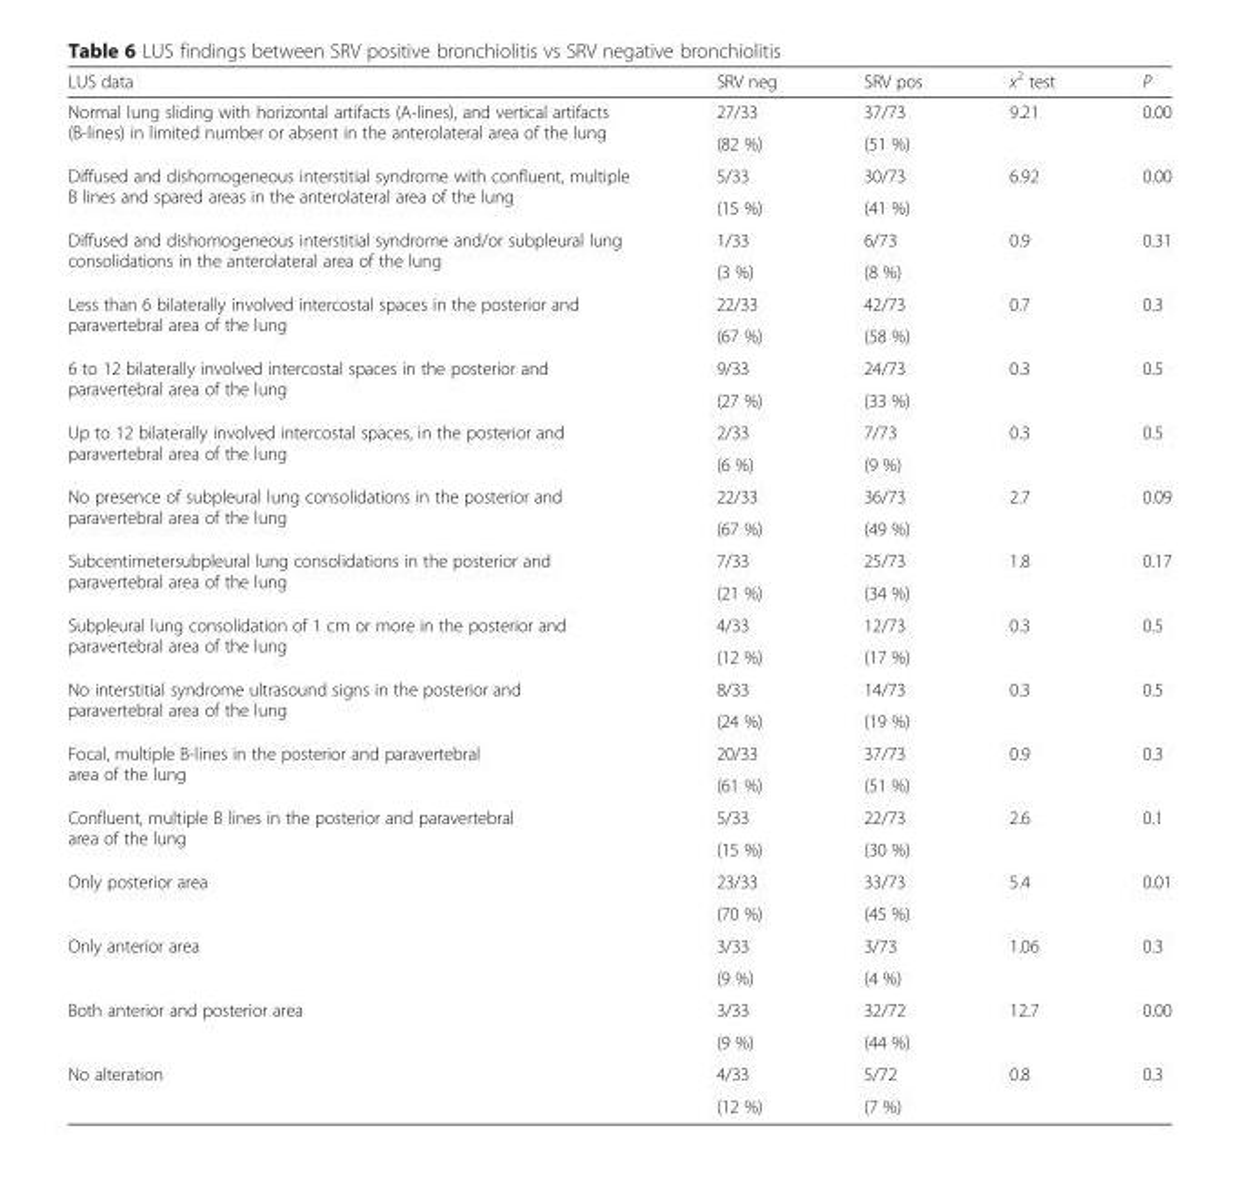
<table><thead><tr><td>LUS data</td><td>SRV neg</td><td>SRV pos</td><td>x<sup>2</sup> test</td><td>P</td></tr></thead><tbody><tr><td rowspan="2">Normal lung sliding with horizontal artifacts (A-lines), and vertical artifacts (B-lines) in limited number or absent in the anterolateral area of the lung</td><td>27/33</td><td>37/73</td><td rowspan="2">9.21</td><td rowspan="2">0.00</td></tr><tr><td>(82 %)</td><td>(51 %)</td></tr><tr><td rowspan="2">Diffused and dishomogeneous interstitial syndrome with confluent, multiple B lines and spared areas in the anterolateral area of the lung</td><td>5/33</td><td>30/73</td><td rowspan="2">6.92</td><td rowspan="2">0.00</td></tr><tr><td>(15 %)</td><td>(41 %)</td></tr><tr><td rowspan="2">Diffused and dishomogeneous interstitial syndrome and/or subpleural lung consolidations in the anterolateral area of the lung</td><td>1/33</td><td>6/73</td><td rowspan="2">0.9</td><td rowspan="2">0.31</td></tr><tr><td>(3 %)</td><td>(8 %)</td></tr><tr><td rowspan="2">Less than 6 bilaterally involved intercostal spaces in the posterior and paravertebral area of the lung</td><td>22/33</td><td>42/73</td><td rowspan="2">0.7</td><td rowspan="2">0.3</td></tr><tr><td>(67 %)</td><td>(58 %)</td></tr><tr><td rowspan="2">6 to 12 bilaterally involved intercostal spaces in the posterior and paravertebral area of the lung</td><td>9/33</td><td>24/73</td><td rowspan="2">0.3</td><td rowspan="2">0.5</td></tr><tr><td>(27 %)</td><td>(33 %)</td></tr><tr><td rowspan="2">Up to 12 bilaterally involved intercostal spaces, in the posterior and paravertebral area of the lung</td><td>2/33</td><td>7/73</td><td rowspan="2">0.3</td><td rowspan="2">0.5</td></tr><tr><td>(6 %)</td><td>(9 %)</td></tr><tr><td rowspan="2">No presence of subpleural lung consolidations in the posterior and paravertebral area of the lung</td><td>22/33</td><td>36/73</td><td rowspan="2">2.7</td><td rowspan="2">0.09</td></tr><tr><td>(67 %)</td><td>(49 %)</td></tr><tr><td rowspan="2">Subcentimetersubpleural lung consolidations in the posterior and paravertebral area of the lung</td><td>7/33</td><td>25/73</td><td rowspan="2">1.8</td><td rowspan="2">0.17</td></tr><tr><td>(21 %)</td><td>(34 %)</td></tr><tr><td rowspan="2">Subpleural lung consolidation of 1 cm or more in the posterior and paravertebral area of the lung</td><td>4/33</td><td>12/73</td><td rowspan="2">0.3</td><td rowspan="2">0.5</td></tr><tr><td>(12 %)</td><td>(17 %)</td></tr><tr><td rowspan="2">No interstitial syndrome ultrasound signs in the posterior and paravertebral area of the lung</td><td>8/33</td><td>14/73</td><td rowspan="2">0.3</td><td rowspan="2">0.5</td></tr><tr><td>(24 %)</td><td>(19 %)</td></tr><tr><td rowspan="2">Focal, multiple B-lines in the posterior and paravertebral area of the lung</td><td>20/33</td><td>37/73</td><td rowspan="2">0.9</td><td rowspan="2">0.3</td></tr><tr><td>(61 %)</td><td>(51 %)</td></tr><tr><td rowspan="2">Confluent, multiple B lines in the posterior and paravertebral area of the lung</td><td>5/33</td><td>22/73</td><td rowspan="2">2.6</td><td rowspan="2">0.1</td></tr><tr><td>(15 %)</td><td>(30 %)</td></tr><tr><td rowspan="2">Only posterior area</td><td>23/33</td><td>33/73</td><td rowspan="2">5.4</td><td rowspan="2">0.01</td></tr><tr><td>(70 %)</td><td>(45 %)</td></tr><tr><td rowspan="2">Only anterior area</td><td>3/33</td><td>3/73</td><td rowspan="2">1.06</td><td rowspan="2">0.3</td></tr><tr><td>(9 %)</td><td>(4 %)</td></tr><tr><td rowspan="2">Both anterior and posterior area</td><td>3/33</td><td>32/72</td><td rowspan="2">12.7</td><td rowspan="2">0.00</td></tr><tr><td>(9 %)</td><td>(44 %)</td></tr><tr><td rowspan="2">No alteration</td><td>4/33</td><td>5/72</td><td rowspan="2">0.8</td><td rowspan="2">0.3</td></tr><tr><td>(12 %)</td><td>(7 %)</td></tr></tbody></table>